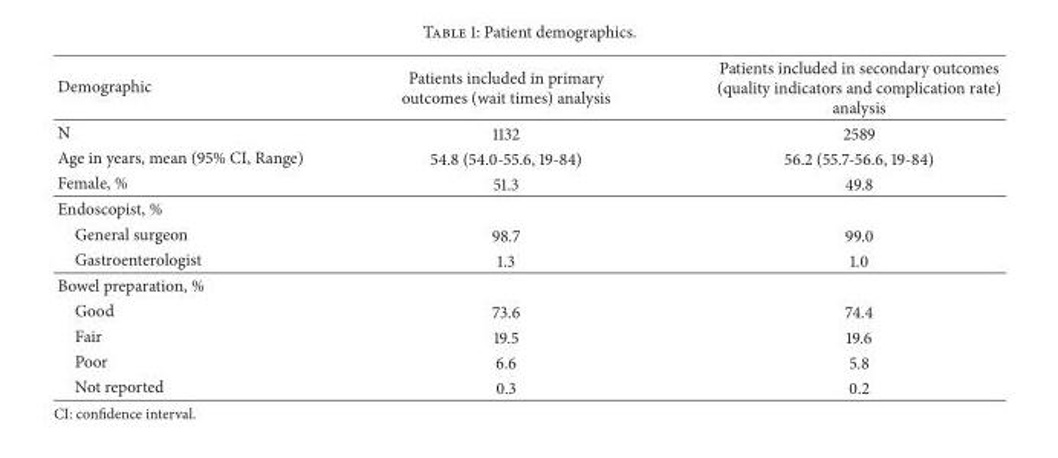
<table><thead><tr><td>Demographic</td><td>Patients included in primary outcomes (wait times) analysis</td><td>Patients included in secondary outcomes (quality indicators and complication rate) analysis</td></tr></thead><tbody><tr><td>N</td><td>1132</td><td>2589</td></tr><tr><td>Age in years, mean (95% CI, Range)</td><td>54.8 (54.0-55.6, 19-84)</td><td>56.2 (55.7-56.6, 19-84)</td></tr><tr><td>Female, %</td><td>51.3</td><td>49.8</td></tr><tr><td colspan="3">Endoscopist, %</td></tr><tr><td>General surgeon</td><td>98.7</td><td>99.0</td></tr><tr><td>Gastroenterologist</td><td>1.3</td><td>1.0</td></tr><tr><td colspan="3">Bowel preparation, %</td></tr><tr><td>Good</td><td>73.6</td><td>74.4</td></tr><tr><td>Fair</td><td>19.5</td><td>19.6</td></tr><tr><td>Poor</td><td>6.6</td><td>5.8</td></tr><tr><td>Not reported</td><td>0.3</td><td>0.2</td></tr></tbody></table>